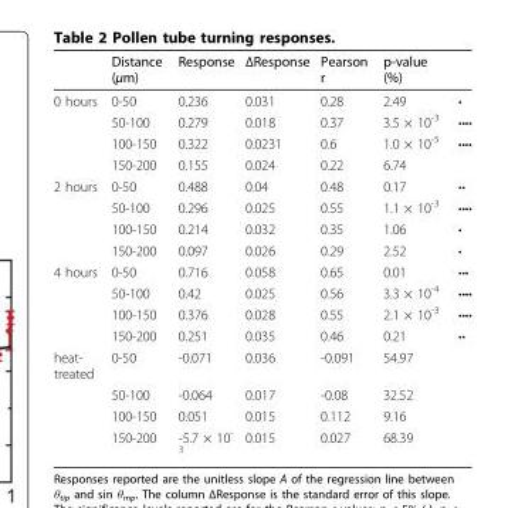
<table><thead><tr><td></td><td>Distance (μm)</td><td>Response</td><td>ΔResponse</td><td>Pearson r</td><td>p-value (%)</td><td></td></tr></thead><tbody><tr><td rowspan="4">0 hours</td><td>0-50</td><td>0.236</td><td>0.031</td><td>0.28</td><td>2.49</td><td>•</td></tr><tr><td>50-100</td><td>0.279</td><td>0.018</td><td>0.37</td><td>3.5 × 10<sup>-3</sup></td><td>••••</td></tr><tr><td>100-150</td><td>0.322</td><td>0.0231</td><td>0.6</td><td>1.0 × 10<sup>-5</sup></td><td>••••</td></tr><tr><td>150-200</td><td>0.155</td><td>0.024</td><td>0.22</td><td>6.74</td><td></td></tr><tr><td rowspan="4">2 hours</td><td>0-50</td><td>0.488</td><td>0.04</td><td>0.48</td><td>0.17</td><td>••</td></tr><tr><td>50-100</td><td>0.296</td><td>0.025</td><td>0.55</td><td>1.1 × 10<sup>-3</sup></td><td>••••</td></tr><tr><td>100-150</td><td>0.214</td><td>0.032</td><td>0.35</td><td>1.06</td><td>•</td></tr><tr><td>150-200</td><td>0.097</td><td>0.026</td><td>0.29</td><td>2.52</td><td>•</td></tr><tr><td rowspan="4">4 hours</td><td>0-50</td><td>0.716</td><td>0.058</td><td>0.65</td><td>0.01</td><td>•••</td></tr><tr><td>50-100</td><td>0.42</td><td>0.025</td><td>0.56</td><td>3.3 × 10<sup>-4</sup></td><td>••••</td></tr><tr><td>100-150</td><td>0.376</td><td>0.028</td><td>0.55</td><td>2.1 × 10<sup>-3</sup></td><td>••••</td></tr><tr><td>150-200</td><td>0.251</td><td>0.035</td><td>0.46</td><td>0.21</td><td>••</td></tr><tr><td rowspan="4">heat- treated</td><td>0-50</td><td>-0.071</td><td>0.036</td><td>-0.091</td><td>54.97</td><td></td></tr><tr><td>50-100</td><td>-0.064</td><td>0.017</td><td>-0.08</td><td>32.52</td><td></td></tr><tr><td>100-150</td><td>0.051</td><td>0.015</td><td>0.112</td><td>9.16</td><td></td></tr><tr><td>150-200</td><td>-5.7 × 10<sup>- 3</sup></td><td>0.015</td><td>0.027</td><td>68.39</td><td></td></tr></tbody></table>